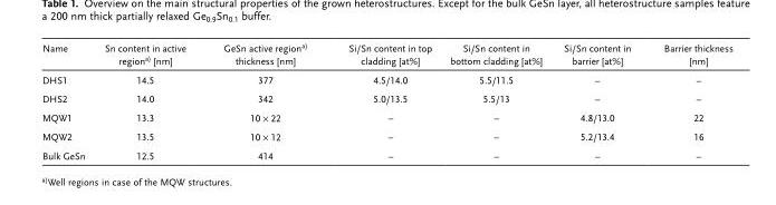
<table><thead><tr><td>Name</td><td>Sn content in active regiona) [nm]</td><td>GeSn active regiona) thickness [nm]</td><td>Si/Sn content in top cladding [at%]</td><td>Si/Sn content in bottom cladding [at%]</td><td>Si/Sn content in barrier [at%]</td><td>Barrier thickness [nm]</td></tr></thead><tbody><tr><td>DHS1</td><td>14.5</td><td>377</td><td>4.5/14.0</td><td>5.5/11.5</td><td>–</td><td>–</td></tr><tr><td>DHS2</td><td>14.0</td><td>342</td><td>5.0/13.5</td><td>5.5/13</td><td>–</td><td>–</td></tr><tr><td>MQW1</td><td>13.3</td><td>10 × 22</td><td>–</td><td>–</td><td>4.8/13.0</td><td>22</td></tr><tr><td>MQW2</td><td>13.5</td><td>10 × 12</td><td>–</td><td>–</td><td>5.2/13.4</td><td>16</td></tr><tr><td>Bulk GeSn</td><td>12.5</td><td>414</td><td>–</td><td>–</td><td>–</td><td>–</td></tr></tbody></table>